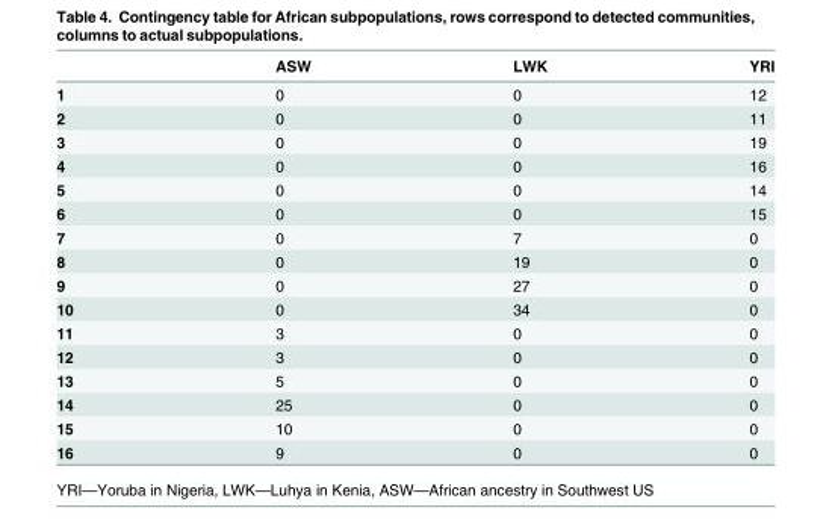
<table><thead><tr><td></td><td>ASW</td><td>LWK</td><td>YRI</td></tr></thead><tbody><tr><td>1</td><td>0</td><td>0</td><td>12</td></tr><tr><td>2</td><td>0</td><td>0</td><td>11</td></tr><tr><td>3</td><td>0</td><td>0</td><td>19</td></tr><tr><td>4</td><td>0</td><td>0</td><td>16</td></tr><tr><td>5</td><td>0</td><td>0</td><td>14</td></tr><tr><td>6</td><td>0</td><td>0</td><td>15</td></tr><tr><td>7</td><td>0</td><td>7</td><td>0</td></tr><tr><td>8</td><td>0</td><td>19</td><td>0</td></tr><tr><td>9</td><td>0</td><td>27</td><td>0</td></tr><tr><td>10</td><td>0</td><td>34</td><td>0</td></tr><tr><td>11</td><td>3</td><td>0</td><td>0</td></tr><tr><td>12</td><td>3</td><td>0</td><td>0</td></tr><tr><td>13</td><td>5</td><td>0</td><td>0</td></tr><tr><td>14</td><td>25</td><td>0</td><td>0</td></tr><tr><td>15</td><td>10</td><td>0</td><td>0</td></tr><tr><td>16</td><td>9</td><td>0</td><td>0</td></tr></tbody></table>